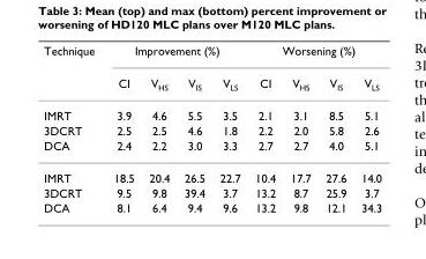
<table><thead><tr><td rowspan="2">Technique</td><td colspan="4">Improvement (%)</td><td colspan="4">Worsening (%)</td></tr><tr><td>CI</td><td>V<sub>HS</sub></td><td>V<sub>IS</sub></td><td>V<sub>LS</sub></td><td>CI</td><td>V<sub>HS</sub></td><td>V<sub>IS</sub></td><td>V<sub>LS</sub></td></tr></thead><tbody><tr><td>IMRT</td><td>3.9</td><td>4.6</td><td>5.5</td><td>3.5</td><td>2.1</td><td>3.1</td><td>8.5</td><td>5.1</td></tr><tr><td>3DCRT</td><td>2.5</td><td>2.5</td><td>4.6</td><td>1.8</td><td>2.2</td><td>2.0</td><td>5.8</td><td>2.6</td></tr><tr><td>DCA</td><td>2.4</td><td>2.2</td><td>3.0</td><td>3.3</td><td>2.7</td><td>2.7</td><td>4.0</td><td>5.1</td></tr><tr><td>IMRT</td><td>18.5</td><td>20.4</td><td>26.5</td><td>22.7</td><td>10.4</td><td>17.7</td><td>27.6</td><td>14.0</td></tr><tr><td>3DCRT</td><td>9.5</td><td>9.8</td><td>39.4</td><td>3.7</td><td>13.2</td><td>8.7</td><td>25.9</td><td>3.7</td></tr><tr><td>DCA</td><td>8.1</td><td>6.4</td><td>9.4</td><td>9.6</td><td>13.2</td><td>9.8</td><td>12.1</td><td>34.3</td></tr></tbody></table>